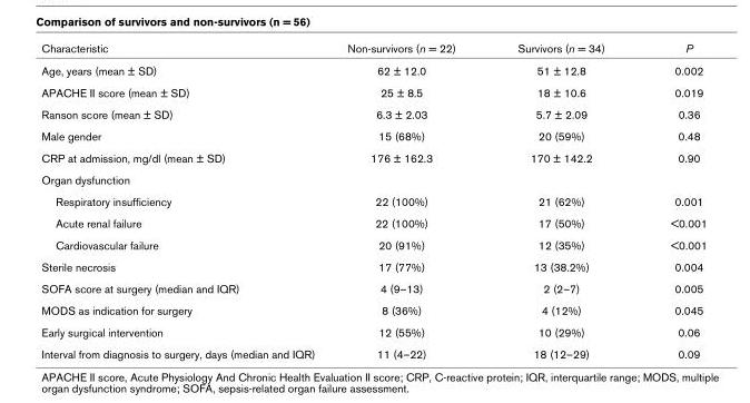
<table><thead><tr><td>Characteristic</td><td>Non-survivors (n = 22)</td><td>Survivors (n = 34)</td><td>P</td></tr></thead><tbody><tr><td>Age, years (mean ± SD)</td><td>62 ± 12.0</td><td>51 ± 12.8</td><td>0.002</td></tr><tr><td>APACHE II score (mean ± SD)</td><td>25 ± 8.5</td><td>18 ± 10.6</td><td>0.019</td></tr><tr><td>Ranson score (mean ± SD)</td><td>6.3 ± 2.03</td><td>5.7 ± 2.09</td><td>0.36</td></tr><tr><td>Male gender</td><td>15 (68%)</td><td>20 (59%)</td><td>0.48</td></tr><tr><td>CRP at admission, mg/dl (mean ± SD)</td><td>176 ± 162.3</td><td>170 ± 142.2</td><td>0.90</td></tr><tr><td colspan="4">Organ dysfunction</td></tr><tr><td>Respiratory insufficiency</td><td>22 (100%)</td><td>21 (62%)</td><td>0.001</td></tr><tr><td>Acute renal failure</td><td>22 (100%)</td><td>17 (50%)</td><td>&lt;0.001</td></tr><tr><td>Cardiovascular failure</td><td>20 (91%)</td><td>12 (35%)</td><td>&lt;0.001</td></tr><tr><td>Sterile necrosis</td><td>17 (77%)</td><td>13 (38.2%)</td><td>0.004</td></tr><tr><td>SOFA score at surgery (median and IQR)</td><td>4 (9–13)</td><td>2 (2–7)</td><td>0.005</td></tr><tr><td>MODS as indication for surgery</td><td>8 (36%)</td><td>4 (12%)</td><td>0.045</td></tr><tr><td>Early surgical intervention</td><td>12 (55%)</td><td>10 (29%)</td><td>0.06</td></tr><tr><td>Interval from diagnosis to surgery, days (median and IQR)</td><td>11 (4–22)</td><td>18 (12–29)</td><td>0.09</td></tr></tbody></table>